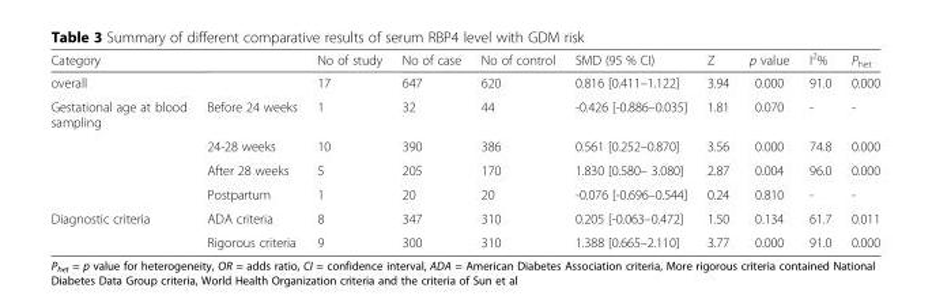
<table><thead><tr><td>Category</td><td></td><td>No of study</td><td>No of case</td><td>No of control</td><td>SMD (95 % CI)</td><td>Z</td><td>p value</td><td>I<sup>2</sup>%</td><td>P<sub>het</sub></td></tr></thead><tbody><tr><td>overall</td><td></td><td>17</td><td>647</td><td>620</td><td>0.816 [0.411–1.122]</td><td>3.94</td><td>0.000</td><td>91.0</td><td>0.000</td></tr><tr><td rowspan="4">Gestational age at blood sampling</td><td>Before 24 weeks</td><td>1</td><td>32</td><td>44</td><td>-0.426 [-0.886–0.035]</td><td>1.81</td><td>0.070</td><td>-</td><td>-</td></tr><tr><td>24-28 weeks</td><td>10</td><td>390</td><td>386</td><td>0.561 [0.252–0.870]</td><td>3.56</td><td>0.000</td><td>74.8</td><td>0.000</td></tr><tr><td>After 28 weeks</td><td>5</td><td>205</td><td>170</td><td>1.830 [0.580– 3.080]</td><td>2.87</td><td>0.004</td><td>96.0</td><td>0.000</td></tr><tr><td>Postpartum</td><td>1</td><td>20</td><td>20</td><td>-0.076 [-0.696–0.544]</td><td>0.24</td><td>0.810</td><td>-</td><td>-</td></tr><tr><td rowspan="2">Diagnostic criteria</td><td>ADA criteria</td><td>8</td><td>347</td><td>310</td><td>0.205 [-0.063–0.472]</td><td>1.50</td><td>0.134</td><td>61.7</td><td>0.011</td></tr><tr><td>Rigorous criteria</td><td>9</td><td>300</td><td>310</td><td>1.388 [0.665–2.110]</td><td>3.77</td><td>0.000</td><td>91.0</td><td>0.000</td></tr></tbody></table>